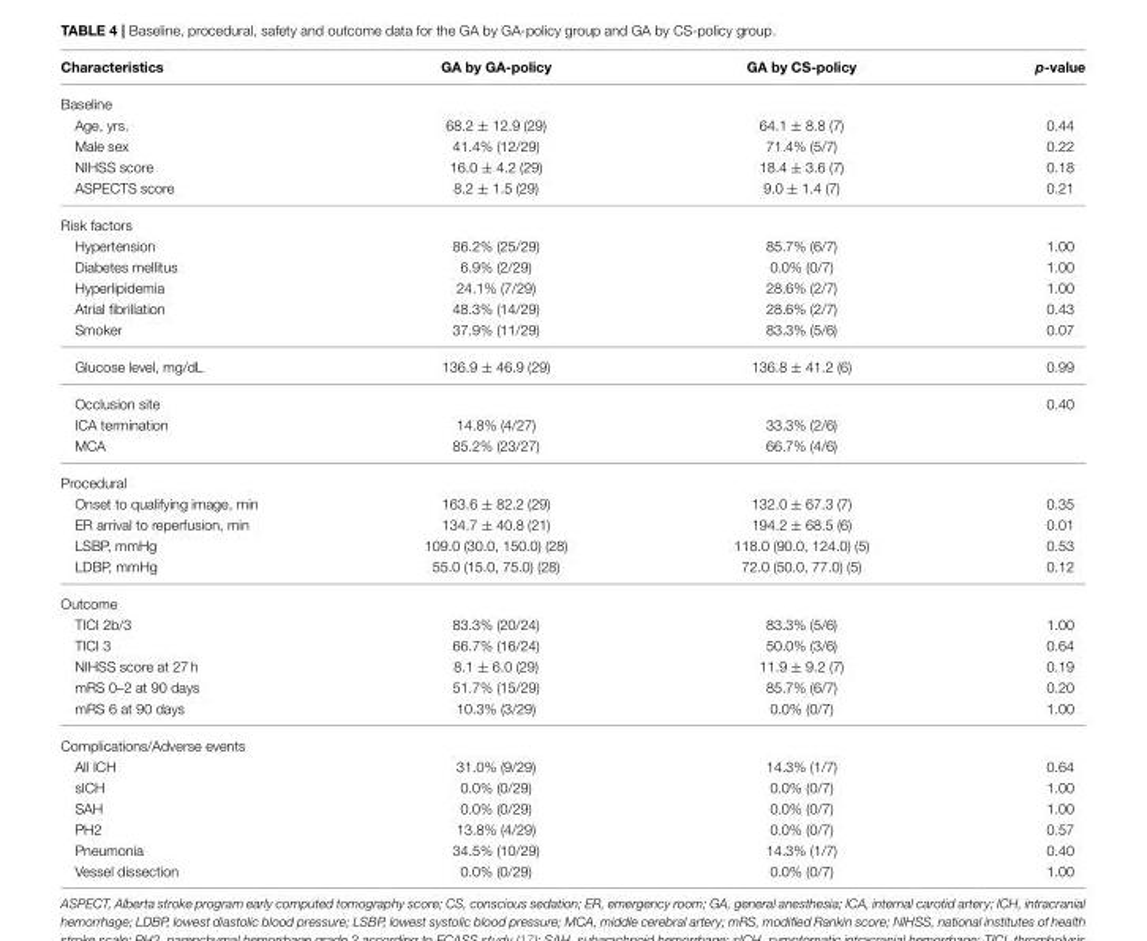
<table><thead><tr><td>Characteristics</td><td>GA by GA-policy</td><td>GA by CS-policy</td><td>p-value</td></tr></thead><tbody><tr><td colspan="4">Baseline</td></tr><tr><td>Age, yrs.</td><td>68.2 ± 12.9 (29)</td><td>64.1 ± 8.8 (7)</td><td>0.44</td></tr><tr><td>Male sex</td><td>41.4% (12/29)</td><td>71.4% (5/7)</td><td>0.22</td></tr><tr><td>NIHSS score</td><td>16.0 ± 4.2 (29)</td><td>18.4 ± 3.6 (7)</td><td>0.18</td></tr><tr><td>ASPECTS score</td><td>8.2 ± 1.5 (29)</td><td>9.0 ± 1.4 (7)</td><td>0.21</td></tr><tr><td colspan="4">Risk factors</td></tr><tr><td>Hypertension</td><td>86.2% (25/29)</td><td>85.7% (6/7)</td><td>1.00</td></tr><tr><td>Diabetes mellitus</td><td>6.9% (2/29)</td><td>0.0% (0/7)</td><td>1.00</td></tr><tr><td>Hyperlipidemia</td><td>24.1% (7/29)</td><td>28.6% (2/7)</td><td>1.00</td></tr><tr><td>Atrial fibrillation</td><td>48.3% (14/29)</td><td>28.6% (2/7)</td><td>0.43</td></tr><tr><td>Smoker</td><td>37.9% (11/29)</td><td>83.3% (5/6)</td><td>0.07</td></tr><tr><td>Glucose level, mg/dL</td><td>136.9 ± 46.9 (29)</td><td>136.8 ± 41.2 (6)</td><td>0.99</td></tr><tr><td>Occlusion site</td><td></td><td></td><td>0.40</td></tr><tr><td>ICA termination</td><td>14.8% (4/27)</td><td>33.3% (2/6)</td><td></td></tr><tr><td>MCA</td><td>85.2% (23/27)</td><td>66.7% (4/6)</td><td></td></tr><tr><td colspan="4">Procedural</td></tr><tr><td>Onset to qualifying image, min</td><td>163.6 ± 82.2 (29)</td><td>132.0 ± 67.3 (7)</td><td>0.35</td></tr><tr><td>ER arrival to reperfusion, min</td><td>134.7 ± 40.8 (21)</td><td>194.2 ± 68.5 (6)</td><td>0.01</td></tr><tr><td>LSBP, mmHg</td><td>109.0 (30.0, 150.0) (28)</td><td>118.0 (90.0, 124.0) (5)</td><td>0.53</td></tr><tr><td>LDBP, mmHg</td><td>55.0 (15.0, 75.0) (28)</td><td>72.0 (50.0, 77.0) (5)</td><td>0.12</td></tr><tr><td colspan="4">Outcome</td></tr><tr><td>TICI 2b/3</td><td>83.3% (20/24)</td><td>83.3% (5/6)</td><td>1.00</td></tr><tr><td>TICI 3</td><td>66.7% (16/24)</td><td>50.0% (3/6)</td><td>0.64</td></tr><tr><td>NIHSS score at 27 h</td><td>8.1 ± 6.0 (29)</td><td>11.9 ± 9.2 (7)</td><td>0.19</td></tr><tr><td>mRS 0–2 at 90 days</td><td>51.7% (15/29)</td><td>85.7% (6/7)</td><td>0.20</td></tr><tr><td>mRS 6 at 90 days</td><td>10.3% (3/29)</td><td>0.0% (0/7)</td><td>1.00</td></tr><tr><td colspan="4">Complications/Adverse events</td></tr><tr><td>All ICH</td><td>31.0% (9/29)</td><td>14.3% (1/7)</td><td>0.64</td></tr><tr><td>sICH</td><td>0.0% (0/29)</td><td>0.0% (0/7)</td><td>1.00</td></tr><tr><td>SAH</td><td>0.0% (0/29)</td><td>0.0% (0/7)</td><td>1.00</td></tr><tr><td>PH2</td><td>13.8% (4/29)</td><td>0.0% (0/7)</td><td>0.57</td></tr><tr><td>Pneumonia</td><td>34.5% (10/29)</td><td>14.3% (1/7)</td><td>0.40</td></tr><tr><td>Vessel dissection</td><td>0.0% (0/29)</td><td>0.0% (0/7)</td><td>1.00</td></tr></tbody></table>